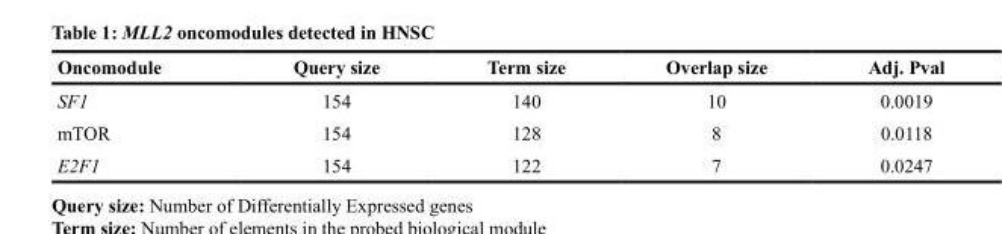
<table><thead><tr><td>Oncomodule</td><td>Query size</td><td>Term size</td><td>Overlap size</td><td>Adj. Pval</td></tr></thead><tbody><tr><td>SF1</td><td>154</td><td>140</td><td>10</td><td>0.0019</td></tr><tr><td>mTOR</td><td>154</td><td>128</td><td>8</td><td>0.0118</td></tr><tr><td>E2F1</td><td>154</td><td>122</td><td>7</td><td>0.0247</td></tr></tbody></table>